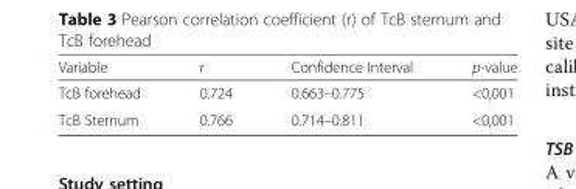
<table><thead><tr><td>Variable</td><td>r</td><td>Confidence Interval</td><td>p-value</td></tr></thead><tbody><tr><td>TcB forehead</td><td>0.724</td><td>0.663–0.775</td><td>&lt;0,001</td></tr><tr><td>TcB Sternum</td><td>0.766</td><td>0.714–0.811</td><td>&lt;0,001</td></tr></tbody></table>